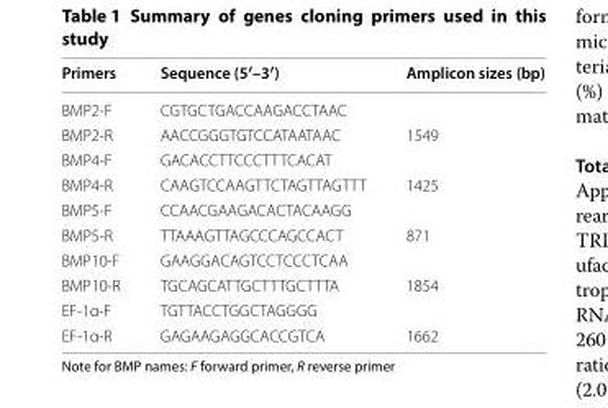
<table><thead><tr><td>Primers</td><td>Sequence (5′–3′)</td><td>Amplicon sizes (bp)</td></tr></thead><tbody><tr><td>BMP2-F</td><td>CGTGCTGACCAAGACCTAAC</td><td></td></tr><tr><td>BMP2-R</td><td>AACCGGGTGTCCATAATAAC</td><td>1549</td></tr><tr><td>BMP4-F</td><td>GACACCTTCCCTTTCACAT</td><td></td></tr><tr><td>BMP4-R</td><td>CAAGTCCAAGTTCTAGTTAGTTT</td><td>1425</td></tr><tr><td>BMP5-F</td><td>CCAACGAAGACACTACAAGG</td><td></td></tr><tr><td>BMP5-R</td><td>TTAAAGTTAGCCCAGCCACT</td><td>871</td></tr><tr><td>BMP10-F</td><td>GAAGGACAGTCCTCCCTCAA</td><td></td></tr><tr><td>BMP10-R</td><td>TGCAGCATTGCTTTGCTTTA</td><td>1854</td></tr><tr><td>EF-1α-F</td><td>TGTTACCTGGCTAGGGG</td><td></td></tr><tr><td>EF-1α-R</td><td>GAGAAGAGGCACCGTCA</td><td>1662</td></tr></tbody></table>